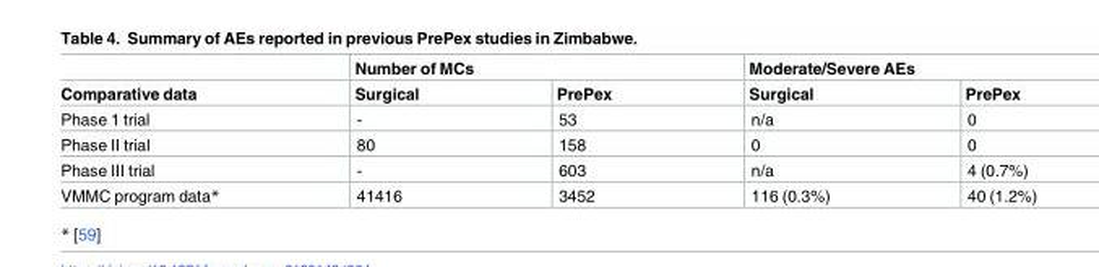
<table><thead><tr><td rowspan="2">Comparative data</td><td colspan="2">Number of MCs</td><td colspan="2">Moderate/Severe AEs</td></tr><tr><td>Surgical</td><td>PrePex</td><td>Surgical</td><td>PrePex</td></tr></thead><tbody><tr><td>Phase 1 trial</td><td>-</td><td>53</td><td>n/a</td><td>0</td></tr><tr><td>Phase II trial</td><td>80</td><td>158</td><td>0</td><td>0</td></tr><tr><td>Phase III trial</td><td>-</td><td>603</td><td>n/a</td><td>4 (0.7%)</td></tr><tr><td>VMMC program data*</td><td>41416</td><td>3452</td><td>116 (0.3%)</td><td>40 (1.2%)</td></tr></tbody></table>